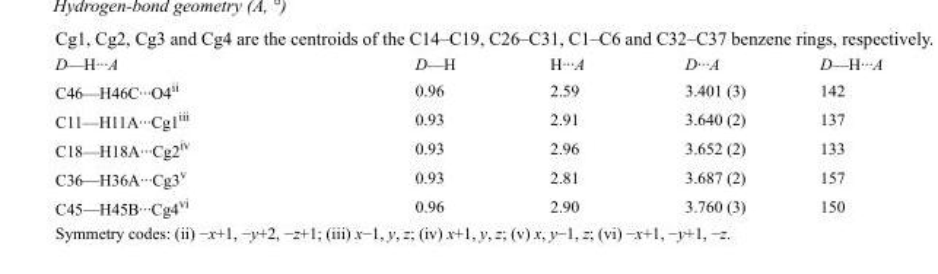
<table><tbody><tr><td>D—H···A</td><td>D—H</td><td>H···A</td><td>D···A</td><td>D—H···A</td></tr><tr><td>C46—H46C···O4<sup>ii</sup></td><td>0.96</td><td>2.59</td><td>3.401 (3)</td><td>142</td></tr><tr><td>C11—H11A···Cg1<sup>iii</sup></td><td>0.93</td><td>2.91</td><td>3.640 (2)</td><td>137</td></tr><tr><td>C18—H18A···Cg2<sup>iv</sup></td><td>0.93</td><td>2.96</td><td>3.652 (2)</td><td>133</td></tr><tr><td>C36—H36A···Cg3<sup>v</sup></td><td>0.93</td><td>2.81</td><td>3.687 (2)</td><td>157</td></tr><tr><td>C45—H45B···Cg4<sup>vi</sup></td><td>0.96</td><td>2.90</td><td>3.760 (3)</td><td>150</td></tr></tbody></table>